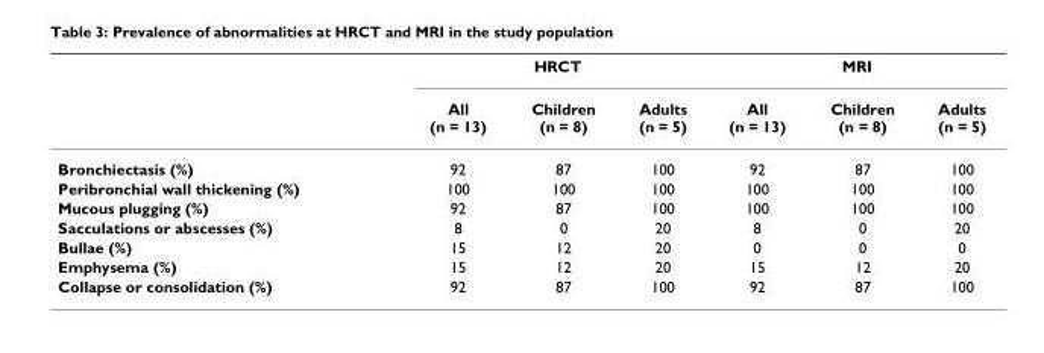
<table><thead><tr><td rowspan="2"></td><td colspan="3">HRCT</td><td colspan="3">MRI</td></tr><tr><td>All (n = 13)</td><td>Children (n = 8)</td><td>Adults (n = 5)</td><td>All (n = 13)</td><td>Children (n = 8)</td><td>Adults (n = 5)</td></tr></thead><tbody><tr><td>Bronchiectasis (%)</td><td>92</td><td>87</td><td>100</td><td>92</td><td>87</td><td>100</td></tr><tr><td>Peribronchial wall thickening (%)</td><td>100</td><td>100</td><td>100</td><td>100</td><td>100</td><td>100</td></tr><tr><td>Mucous plugging (%)</td><td>92</td><td>87</td><td>100</td><td>100</td><td>100</td><td>100</td></tr><tr><td>Sacculations or abscesses (%)</td><td>8</td><td>0</td><td>20</td><td>8</td><td>0</td><td>20</td></tr><tr><td>Bullae (%)</td><td>15</td><td>12</td><td>20</td><td>0</td><td>0</td><td>0</td></tr><tr><td>Emphysema (%)</td><td>15</td><td>12</td><td>20</td><td>15</td><td>12</td><td>20</td></tr><tr><td>Collapse or consolidation (%)</td><td>92</td><td>87</td><td>100</td><td>92</td><td>87</td><td>100</td></tr></tbody></table>